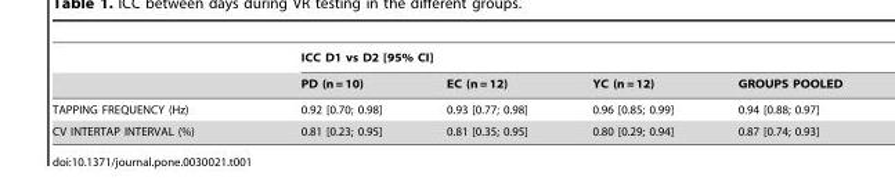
<table><thead><tr><td rowspan="2"></td><td colspan="4">ICC D1 vs D2 [95% CI]</td></tr><tr><td>PD (n = 10)</td><td>EC (n = 12)</td><td>YC (n = 12)</td><td>GROUPS POOLED</td></tr></thead><tbody><tr><td>TAPPING FREQUENCY (Hz)</td><td>0.92 [0.70; 0.98]</td><td>0.93 [0.77; 0.98]</td><td>0.96 [0.85; 0.99]</td><td>0.94 [0.88; 0.97]</td></tr><tr><td>CV INTERTAP INTERVAL (%)</td><td>0.81 [0.23; 0.95]</td><td>0.81 [0.35; 0.95]</td><td>0.80 [0.29; 0.94]</td><td>0.87 [0.74; 0.93]</td></tr></tbody></table>